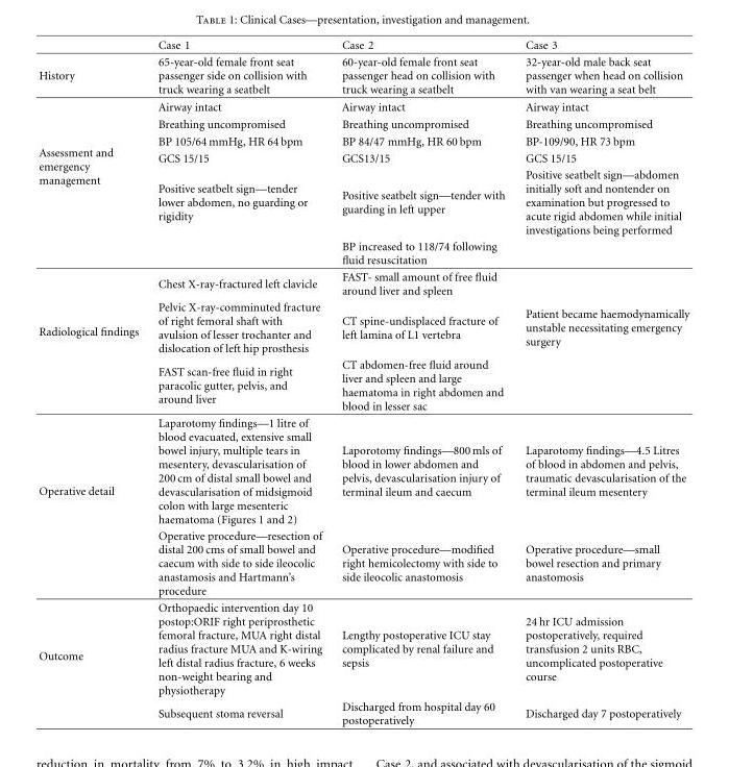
<table><thead><tr><td></td><td>Case 1</td><td>Case 2</td><td>Case 3</td></tr></thead><tbody><tr><td>History</td><td>65-year-old female front seat passenger side on collision with truck wearing a seatbelt</td><td>60-year-old female front seat passenger head on collision with truck wearing a seatbelt</td><td>32-year-old male back seat passenger when head on collision with van wearing a seat belt</td></tr><tr><td rowspan="6">Assessment and emergency management</td><td>Airway intact</td><td>Airway intact</td><td>Airway intact</td></tr><tr><td>Breathing uncompromised</td><td>Breathing uncompromised</td><td>Breathing uncompromised</td></tr><tr><td>BP 105/64 mmHg, HR 64 bpm</td><td>BP 84/47 mmHg, HR 60 bpm</td><td>BP-109/90, HR 73 bpm</td></tr><tr><td>GCS 15/15</td><td>GCS13/15</td><td>GCS 15/15</td></tr><tr><td>Positive seatbelt sign—tender lower abdomen, no guarding or rigidity</td><td>Positive seatbelt sign—tender with guarding in left upper</td><td>Positive seatbelt sign—abdomen initially soft and nontender on examination but progressed to acute rigid abdomen while initial investigations being performed</td></tr><tr><td></td><td>BP increased to 118/74 following fluid resuscitation</td><td></td></tr><tr><td rowspan="3">Radiological findings</td><td>Chest X-ray-fractured left clavicle</td><td>FAST- small amount of free fluid around liver and spleen</td><td></td></tr><tr><td>Pelvic X-ray-comminuted fracture of right femoral shaft with avulsion of lesser trochanter and dislocation of left hip prosthesis</td><td>CT spine-undisplaced fracture of left lamina of L1 vertebra</td><td>Patient became haemodynamically unstable necessitating emergency surgery</td></tr><tr><td>FAST scan-free fluid in right paracolic gutter, pelvis, and around liver</td><td>CT abdomen-free fluid around liver and spleen and large haematoma in right abdomen and blood in lesser sac</td><td></td></tr><tr><td rowspan="2">Operative detail</td><td>Laparotomy findings—1 litre of blood evacuated, extensive small bowel injury, multiple tears in mesentery, devascularisation of 200 cm of distal small bowel and devascularisation of midsigmoid colon with large mesenteric haematoma (Figures 1 and 2)</td><td>Laporotomy findings—800 mls of blood in lower abdomen and pelvis, devascularisation injury of terminal ileum and caecum</td><td>Laparotomy findings—4.5 Litres of blood in abdomen and pelvis, traumatic devascularisation of the terminal ileum mesentery</td></tr><tr><td>Operative procedure—resection of distal 200 cms of small bowel and caecum with side to side ileocolic anastamosis and Hartmann’s procedure</td><td>Operative procedure—modified right hemicolectomy with side to side ileocolic anastomosis</td><td>Operative procedure—small bowel resection and primary anastomosis</td></tr><tr><td rowspan="2">Outcome</td><td>Orthopaedic intervention day 10 postop:ORIF right periprosthetic femoral fracture, MUA right distal radius fracture MUA and K-wiring left distal radius fracture, 6 weeks non-weight bearing and physiotherapy</td><td>Lengthy postoperative ICU stay complicated by renal failure and sepsis</td><td>24 hr ICU admission postoperatively, required transfusion 2 units RBC, uncomplicated postoperative course</td></tr><tr><td>Subsequent stoma reversal</td><td>Discharged from hospital day 60 postoperatively</td><td>Discharged day 7 postoperatively</td></tr></tbody></table>